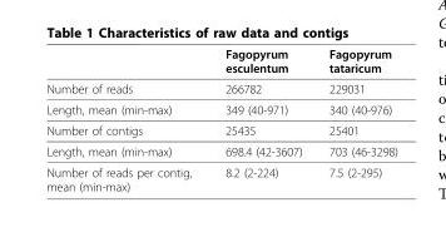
<table><thead><tr><td></td><td>Fagopyrum esculentum</td><td>Fagopyrum tataricum</td></tr></thead><tbody><tr><td>Number of reads</td><td>266782</td><td>229031</td></tr><tr><td>Length, mean (min-max)</td><td>349 (40-971)</td><td>340 (40-976)</td></tr><tr><td>Number of contigs</td><td>25435</td><td>25401</td></tr><tr><td>Length, mean (min-max)</td><td>698.4 (42-3607)</td><td>703 (46-3298)</td></tr><tr><td>Number of reads per contig, mean (min-max)</td><td>8.2 (2-224)</td><td>7.5 (2-295)</td></tr></tbody></table>